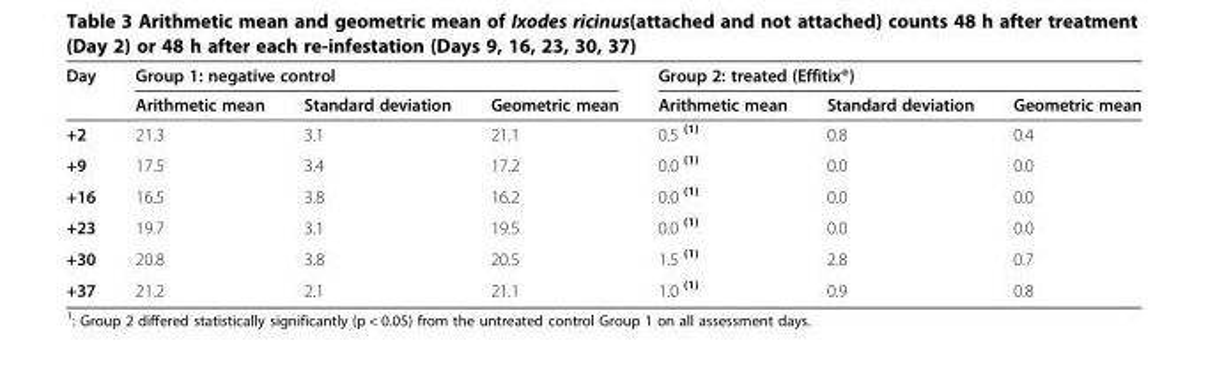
<table><thead><tr><td rowspan="2">Day</td><td colspan="3">Group 1: negative control</td><td colspan="3">Group 2: treated (Effitix®)</td></tr><tr><td>Arithmetic mean</td><td>Standard deviation</td><td>Geometric mean</td><td>Arithmetic mean</td><td>Standard deviation</td><td>Geometric mean</td></tr></thead><tbody><tr><td>+2</td><td>21.3</td><td>3.1</td><td>21.1</td><td>0.5 <sup>(1)</sup></td><td>0.8</td><td>0.4</td></tr><tr><td>+9</td><td>17.5</td><td>3.4</td><td>17.2</td><td>0.0 <sup>(1)</sup></td><td>0.0</td><td>0.0</td></tr><tr><td>+16</td><td>16.5</td><td>3.8</td><td>16.2</td><td>0.0 <sup>(1)</sup></td><td>0.0</td><td>0.0</td></tr><tr><td>+23</td><td>19.7</td><td>3.1</td><td>19.5</td><td>0.0 <sup>(1)</sup></td><td>0.0</td><td>0.0</td></tr><tr><td>+30</td><td>20.8</td><td>3.8</td><td>20.5</td><td>1.5 <sup>(1)</sup></td><td>2.8</td><td>0.7</td></tr><tr><td>+37</td><td>21.2</td><td>2.1</td><td>21.1</td><td>1.0 <sup>(1)</sup></td><td>0.9</td><td>0.8</td></tr></tbody></table>